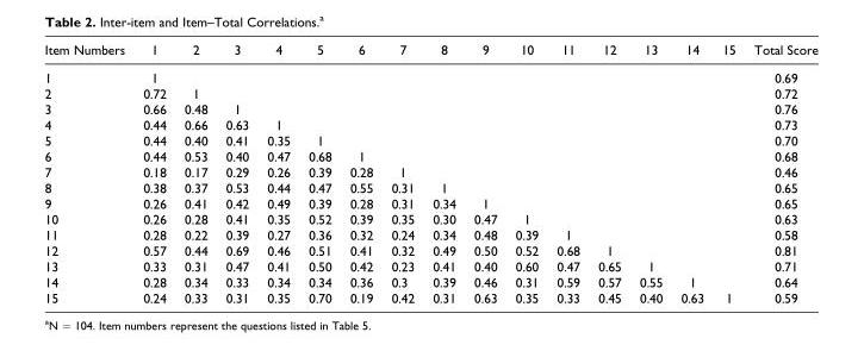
<table><thead><tr><td>Item Numbers</td><td>1</td><td>2</td><td>3</td><td>4</td><td>5</td><td>6</td><td>7</td><td>8</td><td>9</td><td>10</td><td>11</td><td>12</td><td>13</td><td>14</td><td>15</td><td>Total Score</td></tr></thead><tbody><tr><td>1</td><td>1</td><td></td><td></td><td></td><td></td><td></td><td></td><td></td><td></td><td></td><td></td><td></td><td></td><td></td><td></td><td>0.69</td></tr><tr><td>2</td><td>0.72</td><td>1</td><td></td><td></td><td></td><td></td><td></td><td></td><td></td><td></td><td></td><td></td><td></td><td></td><td></td><td>0.72</td></tr><tr><td>3</td><td>0.66</td><td>0.48</td><td>1</td><td></td><td></td><td></td><td></td><td></td><td></td><td></td><td></td><td></td><td></td><td></td><td></td><td>0.76</td></tr><tr><td>4</td><td>0.44</td><td>0.66</td><td>0.63</td><td>1</td><td></td><td></td><td></td><td></td><td></td><td></td><td></td><td></td><td></td><td></td><td></td><td>0.73</td></tr><tr><td>5</td><td>0.44</td><td>0.40</td><td>0.41</td><td>0.35</td><td>1</td><td></td><td></td><td></td><td></td><td></td><td></td><td></td><td></td><td></td><td></td><td>0.70</td></tr><tr><td>6</td><td>0.44</td><td>0.53</td><td>0.40</td><td>0.47</td><td>0.68</td><td>1</td><td></td><td></td><td></td><td></td><td></td><td></td><td></td><td></td><td></td><td>0.68</td></tr><tr><td>7</td><td>0.18</td><td>0.17</td><td>0.29</td><td>0.26</td><td>0.39</td><td>0.28</td><td>1</td><td></td><td></td><td></td><td></td><td></td><td></td><td></td><td></td><td>0.46</td></tr><tr><td>8</td><td>0.38</td><td>0.37</td><td>0.53</td><td>0.44</td><td>0.47</td><td>0.55</td><td>0.31</td><td>1</td><td></td><td></td><td></td><td></td><td></td><td></td><td></td><td>0.65</td></tr><tr><td>9</td><td>0.26</td><td>0.41</td><td>0.42</td><td>0.49</td><td>0.39</td><td>0.28</td><td>0.31</td><td>0.34</td><td>1</td><td></td><td></td><td></td><td></td><td></td><td></td><td>0.65</td></tr><tr><td>10</td><td>0.26</td><td>0.28</td><td>0.41</td><td>0.35</td><td>0.52</td><td>0.39</td><td>0.35</td><td>0.30</td><td>0.47</td><td>1</td><td></td><td></td><td></td><td></td><td></td><td>0.63</td></tr><tr><td>11</td><td>0.28</td><td>0.22</td><td>0.39</td><td>0.27</td><td>0.36</td><td>0.32</td><td>0.24</td><td>0.34</td><td>0.48</td><td>0.39</td><td>1</td><td></td><td></td><td></td><td></td><td>0.58</td></tr><tr><td>12</td><td>0.57</td><td>0.44</td><td>0.69</td><td>0.46</td><td>0.51</td><td>0.41</td><td>0.32</td><td>0.49</td><td>0.50</td><td>0.52</td><td>0.68</td><td>1</td><td></td><td></td><td></td><td>0.81</td></tr><tr><td>13</td><td>0.33</td><td>0.31</td><td>0.47</td><td>0.41</td><td>0.50</td><td>0.42</td><td>0.23</td><td>0.41</td><td>0.40</td><td>0.60</td><td>0.47</td><td>0.65</td><td>1</td><td></td><td></td><td>0.71</td></tr><tr><td>14</td><td>0.28</td><td>0.34</td><td>0.33</td><td>0.34</td><td>0.34</td><td>0.36</td><td>0.3</td><td>0.39</td><td>0.46</td><td>0.31</td><td>0.59</td><td>0.57</td><td>0.55</td><td>1</td><td></td><td>0.64</td></tr><tr><td>15</td><td>0.24</td><td>0.33</td><td>0.31</td><td>0.35</td><td>0.70</td><td>0.19</td><td>0.42</td><td>0.31</td><td>0.63</td><td>0.35</td><td>0.33</td><td>0.45</td><td>0.40</td><td>0.63</td><td>1</td><td>0.59</td></tr></tbody></table>